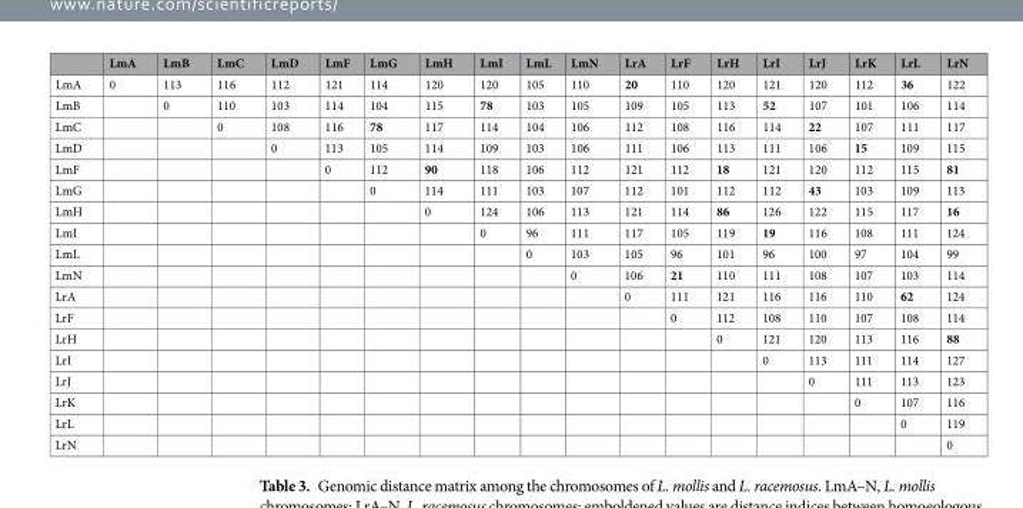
<table><thead><tr><td></td><td>LmA</td><td>LmB</td><td>LmC</td><td>LmD</td><td>LmF</td><td>LmG</td><td>LmH</td><td>LmI</td><td>LmL</td><td>LmN</td><td>LrA</td><td>LrF</td><td>LrH</td><td>LrI</td><td>LrJ</td><td>LrK</td><td>LrL</td><td>LrN</td></tr></thead><tbody><tr><td>LmA</td><td>0</td><td>113</td><td>116</td><td>112</td><td>121</td><td>114</td><td>120</td><td>120</td><td>105</td><td>110</td><td>20</td><td>110</td><td>120</td><td>121</td><td>120</td><td>112</td><td>36</td><td>122</td></tr><tr><td>LmB</td><td></td><td>0</td><td>110</td><td>103</td><td>114</td><td>104</td><td>115</td><td>78</td><td>103</td><td>105</td><td>109</td><td>105</td><td>113</td><td>52</td><td>107</td><td>101</td><td>106</td><td>114</td></tr><tr><td>LmC</td><td></td><td></td><td>0</td><td>108</td><td>116</td><td>78</td><td>117</td><td>114</td><td>104</td><td>106</td><td>112</td><td>108</td><td>116</td><td>114</td><td>22</td><td>107</td><td>111</td><td>117</td></tr><tr><td>LmD</td><td></td><td></td><td></td><td>0</td><td>113</td><td>105</td><td>114</td><td>109</td><td>103</td><td>106</td><td>111</td><td>106</td><td>113</td><td>111</td><td>106</td><td>15</td><td>109</td><td>115</td></tr><tr><td>LmF</td><td></td><td></td><td></td><td></td><td>0</td><td>112</td><td>90</td><td>118</td><td>106</td><td>112</td><td>121</td><td>112</td><td>18</td><td>121</td><td>120</td><td>112</td><td>115</td><td>81</td></tr><tr><td>LmG</td><td></td><td></td><td></td><td></td><td></td><td>0</td><td>114</td><td>111</td><td>103</td><td>107</td><td>112</td><td>101</td><td>112</td><td>112</td><td>43</td><td>103</td><td>109</td><td>113</td></tr><tr><td>LmH</td><td></td><td></td><td></td><td></td><td></td><td></td><td>0</td><td>124</td><td>106</td><td>113</td><td>121</td><td>114</td><td>86</td><td>126</td><td>122</td><td>115</td><td>117</td><td>16</td></tr><tr><td>LmI</td><td></td><td></td><td></td><td></td><td></td><td></td><td></td><td>0</td><td>96</td><td>111</td><td>117</td><td>105</td><td>119</td><td>19</td><td>116</td><td>108</td><td>111</td><td>124</td></tr><tr><td>LmL</td><td></td><td></td><td></td><td></td><td></td><td></td><td></td><td></td><td>0</td><td>103</td><td>105</td><td>96</td><td>101</td><td>96</td><td>100</td><td>97</td><td>104</td><td>99</td></tr><tr><td>LmN</td><td></td><td></td><td></td><td></td><td></td><td></td><td></td><td></td><td></td><td>0</td><td>106</td><td>21</td><td>110</td><td>111</td><td>108</td><td>107</td><td>103</td><td>114</td></tr><tr><td>LrA</td><td></td><td></td><td></td><td></td><td></td><td></td><td></td><td></td><td></td><td></td><td>0</td><td>111</td><td>121</td><td>116</td><td>116</td><td>110</td><td>62</td><td>124</td></tr><tr><td>LrF</td><td></td><td></td><td></td><td></td><td></td><td></td><td></td><td></td><td></td><td></td><td></td><td>0</td><td>112</td><td>108</td><td>110</td><td>107</td><td>108</td><td>114</td></tr><tr><td>LrH</td><td></td><td></td><td></td><td></td><td></td><td></td><td></td><td></td><td></td><td></td><td></td><td></td><td>0</td><td>121</td><td>120</td><td>113</td><td>116</td><td>88</td></tr><tr><td>LrI</td><td></td><td></td><td></td><td></td><td></td><td></td><td></td><td></td><td></td><td></td><td></td><td></td><td></td><td>0</td><td>113</td><td>111</td><td>114</td><td>127</td></tr><tr><td>LrJ</td><td></td><td></td><td></td><td></td><td></td><td></td><td></td><td></td><td></td><td></td><td></td><td></td><td></td><td></td><td>0</td><td>111</td><td>113</td><td>123</td></tr><tr><td>LrK</td><td></td><td></td><td></td><td></td><td></td><td></td><td></td><td></td><td></td><td></td><td></td><td></td><td></td><td></td><td></td><td>0</td><td>107</td><td>116</td></tr><tr><td>LrL</td><td></td><td></td><td></td><td></td><td></td><td></td><td></td><td></td><td></td><td></td><td></td><td></td><td></td><td></td><td></td><td></td><td>0</td><td>119</td></tr><tr><td>LrN</td><td></td><td></td><td></td><td></td><td></td><td></td><td></td><td></td><td></td><td></td><td></td><td></td><td></td><td></td><td></td><td></td><td></td><td>0</td></tr></tbody></table>